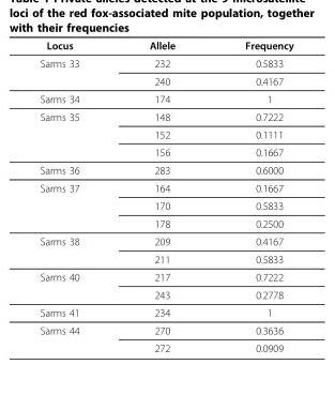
<table><thead><tr><td>Locus</td><td>Allele</td><td>Frequency</td></tr></thead><tbody><tr><td rowspan="2">Sarms 33</td><td>232</td><td>0.5833</td></tr><tr><td>240</td><td>0.4167</td></tr><tr><td>Sarms 34</td><td>174</td><td>1</td></tr><tr><td rowspan="3">Sarms 35</td><td>148</td><td>0.7222</td></tr><tr><td>152</td><td>0.1111</td></tr><tr><td>156</td><td>0.1667</td></tr><tr><td>Sarms 36</td><td>283</td><td>0.6000</td></tr><tr><td rowspan="3">Sarms 37</td><td>164</td><td>0.1667</td></tr><tr><td>170</td><td>0.5833</td></tr><tr><td>178</td><td>0.2500</td></tr><tr><td rowspan="2">Sarms 38</td><td>209</td><td>0.4167</td></tr><tr><td>211</td><td>0.5833</td></tr><tr><td rowspan="2">Sarms 40</td><td>217</td><td>0.7222</td></tr><tr><td>243</td><td>0.2778</td></tr><tr><td>Sarms 41</td><td>234</td><td>1</td></tr><tr><td rowspan="2">Sarms 44</td><td>270</td><td>0.3636</td></tr><tr><td>272</td><td>0.0909</td></tr></tbody></table>